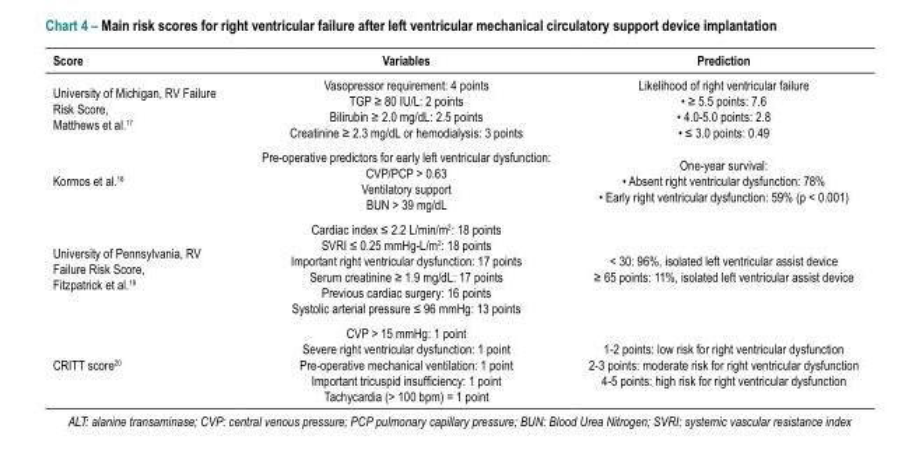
<table><thead><tr><td>Score</td><td>Variables</td><td>Prediction</td></tr></thead><tbody><tr><td>University of Michigan, RV Failure Risk Score, Matthews et al.<sup>17</sup></td><td>Vasopressor requirement: 4 points TGP ≥ 80 IU/L: 2 points Bilirubin ≥ 2.0 mg/dL: 2.5 points Creatinine ≥ 2.3 mg/dL or hemodialysis: 3 points</td><td>Likelihood of right ventricular failure • ≥ 5.5 points: 7.6 • 4.0‑5.0 points: 2.8 • ≤ 3.0 points: 0.49</td></tr><tr><td>Kormos et al.<sup>18</sup></td><td>Pre‑operative predictors for early left ventricular dysfunction: CVP/PCP &gt; 0.63 Ventilatory support BUN &gt; 39 mg/dL</td><td>One‑year survival: • Absent right ventricular dysfunction: 78% • Early right ventricular dysfunction: 59% (p &lt; 0.001)</td></tr><tr><td>University of Pennsylvania, RV Failure Risk Score, Fitzpatrick et al.<sup>19</sup></td><td>Cardiac index ≤ 2.2 L/min/m<sup>2</sup>: 18 points SVRI ≤ 0.25 mmHg-L/m<sup>2</sup>: 18 points Important right ventricular dysfunction: 17 points Serum creatinine ≥ 1.9 mg/dL: 17 points Previous cardiac surgery: 16 points Systolic arterial pressure ≤ 96 mmHg: 13 points</td><td>&lt; 30: 96%, isolated left ventricular assist device ≥ 65 points: 11%, isolated left ventricular assist device</td></tr><tr><td>CRITT score<sup>20</sup></td><td>CVP &gt; 15 mmHg: 1 point Severe right ventricular dysfunction: 1 point Pre‑operative mechanical ventilation: 1 point Important tricuspid insufficiency: 1 point Tachycardia (&gt; 100 bpm) = 1 point</td><td>1‑2 points: low risk for right ventricular dysfunction 2‑3 points: moderate risk for right ventricular dysfunction 4‑5 points: high risk for right ventricular dysfunction</td></tr></tbody></table>